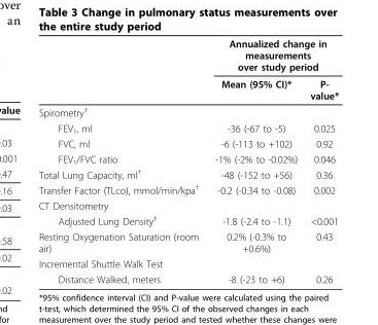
<table><thead><tr><td rowspan="2"></td><td colspan="2">Annualized change in measurements over study period</td></tr><tr><td>Mean (95% CI)*</td><td>P- value*</td></tr></thead><tbody><tr><td colspan="3">Spirometry<sup>†</sup></td></tr><tr><td>FEV<sub>1</sub>, ml</td><td>-36 (-67 to -5)</td><td>0.025</td></tr><tr><td>FVC, ml</td><td>-6 (-113 to +102)</td><td>0.92</td></tr><tr><td>FEV<sub>1</sub>/FVC ratio</td><td>-1% (-2% to -0.02%)</td><td>0.046</td></tr><tr><td>Total Lung Capacity, ml<sup>†</sup></td><td>-48 (-152 to +56)</td><td>0.36</td></tr><tr><td>Transfer Factor (TLco), mmol/min/kpa<sup>†</sup></td><td>-0.2 (-0.34 to -0.08)</td><td>0.002</td></tr><tr><td colspan="3">CT Densitometry</td></tr><tr><td>Adjusted Lung Density<sup>‡</sup></td><td>-1.8 (-2.4 to -1.1)</td><td>&lt;0.001</td></tr><tr><td>Resting Oxygenation Saturation (room air)</td><td>0.2% (-0.3% to +0.6%)</td><td>0.43</td></tr><tr><td colspan="3">Incremental Shuttle Walk Test</td></tr><tr><td>Distance Walked, meters</td><td>-8 (-23 to +6)</td><td>0.26</td></tr></tbody></table>